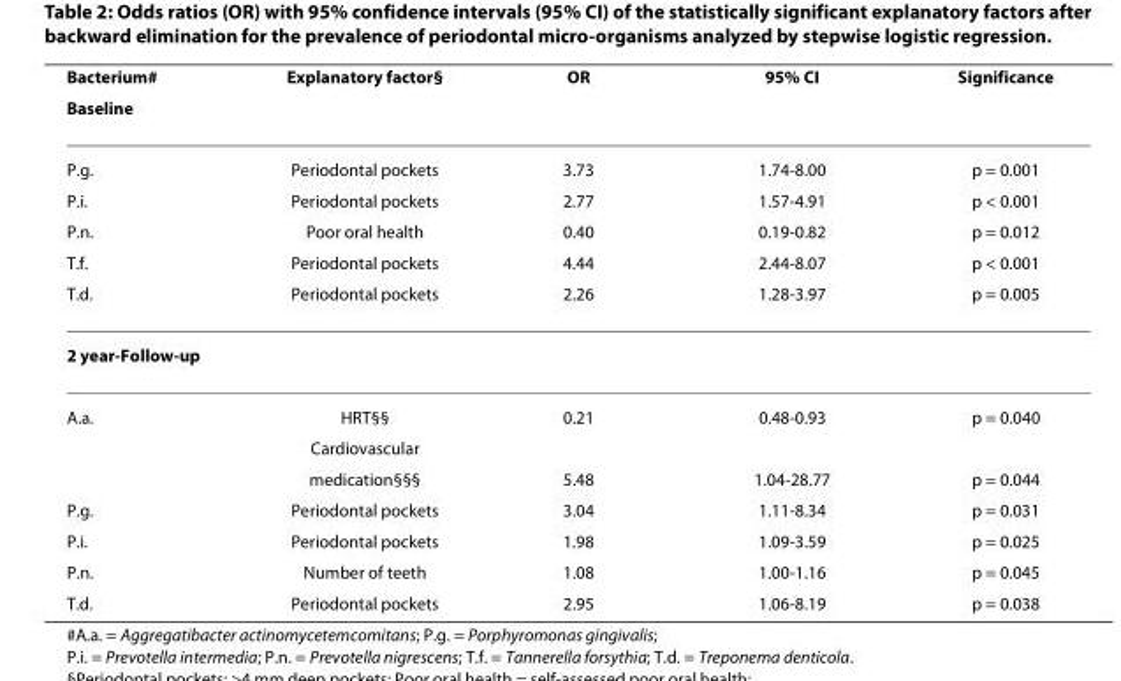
<table><thead><tr><td rowspan="2">Bacterium# Baseline</td><td rowspan="2">Explanatory factor§</td><td rowspan="2">OR</td><td rowspan="2">95% CI</td><td rowspan="2">Significance</td></tr><tr></tr></thead><tbody><tr><td>P.g.</td><td>Periodontal pockets</td><td>3.73</td><td>1.74-8.00</td><td>p = 0.001</td></tr><tr><td>P.i.</td><td>Periodontal pockets</td><td>2.77</td><td>1.57-4.91</td><td>p &lt; 0.001</td></tr><tr><td>P.n.</td><td>Poor oral health</td><td>0.40</td><td>0.19-0.82</td><td>p = 0.012</td></tr><tr><td>T.f.</td><td>Periodontal pockets</td><td>4.44</td><td>2.44-8.07</td><td>p &lt; 0.001</td></tr><tr><td>T.d.</td><td>Periodontal pockets</td><td>2.26</td><td>1.28-3.97</td><td>p = 0.005</td></tr><tr><td colspan="5">2 year-Follow-up</td></tr><tr><td rowspan="3">A.a.</td><td>HRT§§</td><td>0.21</td><td>0.48-0.93</td><td>p = 0.040</td></tr><tr><td>Cardiovascular</td><td></td><td></td><td></td></tr><tr><td>medication§§§</td><td>5.48</td><td>1.04-28.77</td><td>p = 0.044</td></tr><tr><td>P.g.</td><td>Periodontal pockets</td><td>3.04</td><td>1.11-8.34</td><td>p = 0.031</td></tr><tr><td>P.i.</td><td>Periodontal pockets</td><td>1.98</td><td>1.09-3.59</td><td>p = 0.025</td></tr><tr><td>P.n.</td><td>Number of teeth</td><td>1.08</td><td>1.00-1.16</td><td>p = 0.045</td></tr><tr><td>T.d.</td><td>Periodontal pockets</td><td>2.95</td><td>1.06-8.19</td><td>p = 0.038</td></tr></tbody></table>